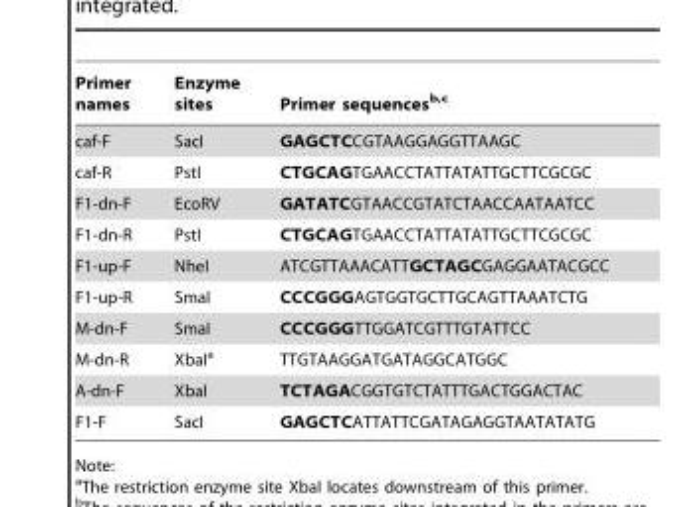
<table><thead><tr><td>Primer names</td><td>Enzyme sites</td><td>Primer sequences<sup>b,</sup>c</td></tr></thead><tbody><tr><td>caf-F</td><td>SacI</td><td>GAGCTCCGTAAGGAGGTTAAGC</td></tr><tr><td>caf-R</td><td>PstI</td><td>CTGCAGTGAACCTATTATATTGCTTCGCGC</td></tr><tr><td>F1-dn-F</td><td>EcoRV</td><td>GATATCGTAACCGTATCTAACCAATAATCC</td></tr><tr><td>F1-dn-R</td><td>PstI</td><td>CTGCAGTGAACCTATTATATTGCTTCGCGC</td></tr><tr><td>F1-up-F</td><td>NheI</td><td>ATCGTTAAACATTGCTAGCGAGGAATACGCC</td></tr><tr><td>F1-up-R</td><td>SmaI</td><td>CCCGGGAGTGGTGCTTGCAGTTAAATCTG</td></tr><tr><td>M-dn-F</td><td>SmaI</td><td>CCCGGGTTGGATCGTTTGTATTCC</td></tr><tr><td>M-dn-R</td><td>XbaI<sup>a</sup></td><td>TTGTAAGGATGATAGGCATGGC</td></tr><tr><td>A-dn-F</td><td>XbaI</td><td>TCTAGACGGTGTCTATTTGACTGGACTAC</td></tr><tr><td>F1-F</td><td>SacI</td><td>GAGCTCATTATTCGATAGAGGTAATATATG</td></tr></tbody></table>